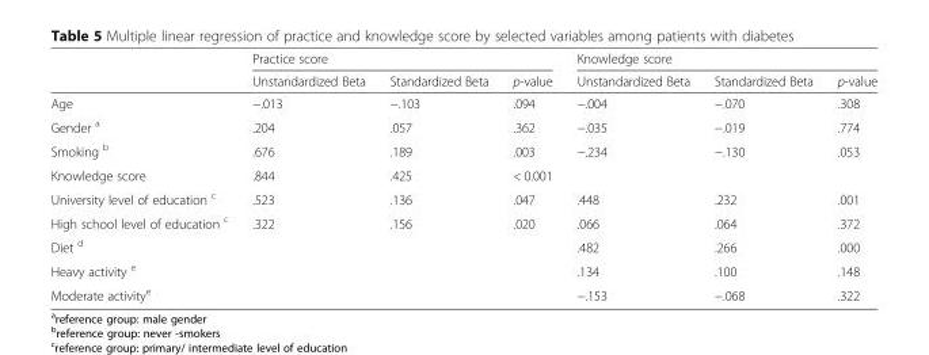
<table><thead><tr><td rowspan="2"></td><td colspan="3">Practice score</td><td colspan="3">Knowledge score</td></tr><tr><td>Unstandardized Beta</td><td>Standardized Beta</td><td>p-value</td><td>Unstandardized Beta</td><td>Standardized Beta</td><td>p-value</td></tr></thead><tbody><tr><td>Age</td><td>−.013</td><td>−.103</td><td>.094</td><td>−.004</td><td>−.070</td><td>.308</td></tr><tr><td>Gender <sup>a</sup></td><td>.204</td><td>.057</td><td>.362</td><td>−.035</td><td>−.019</td><td>.774</td></tr><tr><td>Smoking <sup>b</sup></td><td>.676</td><td>.189</td><td>.003</td><td>−.234</td><td>−.130</td><td>.053</td></tr><tr><td>Knowledge score</td><td>.844</td><td>.425</td><td>&lt; 0.001</td><td></td><td></td><td></td></tr><tr><td>University level of education <sup>c</sup></td><td>.523</td><td>.136</td><td>.047</td><td>.448</td><td>.232</td><td>.001</td></tr><tr><td>High school level of education <sup>c</sup></td><td>.322</td><td>.156</td><td>.020</td><td>.066</td><td>.064</td><td>.372</td></tr><tr><td>Diet <sup>d</sup></td><td></td><td></td><td></td><td>.482</td><td>.266</td><td>.000</td></tr><tr><td>Heavy activity <sup>e</sup></td><td></td><td></td><td></td><td>.134</td><td>.100</td><td>.148</td></tr><tr><td>Moderate activity<sup>e</sup></td><td></td><td></td><td></td><td>−.153</td><td>−.068</td><td>.322</td></tr></tbody></table>